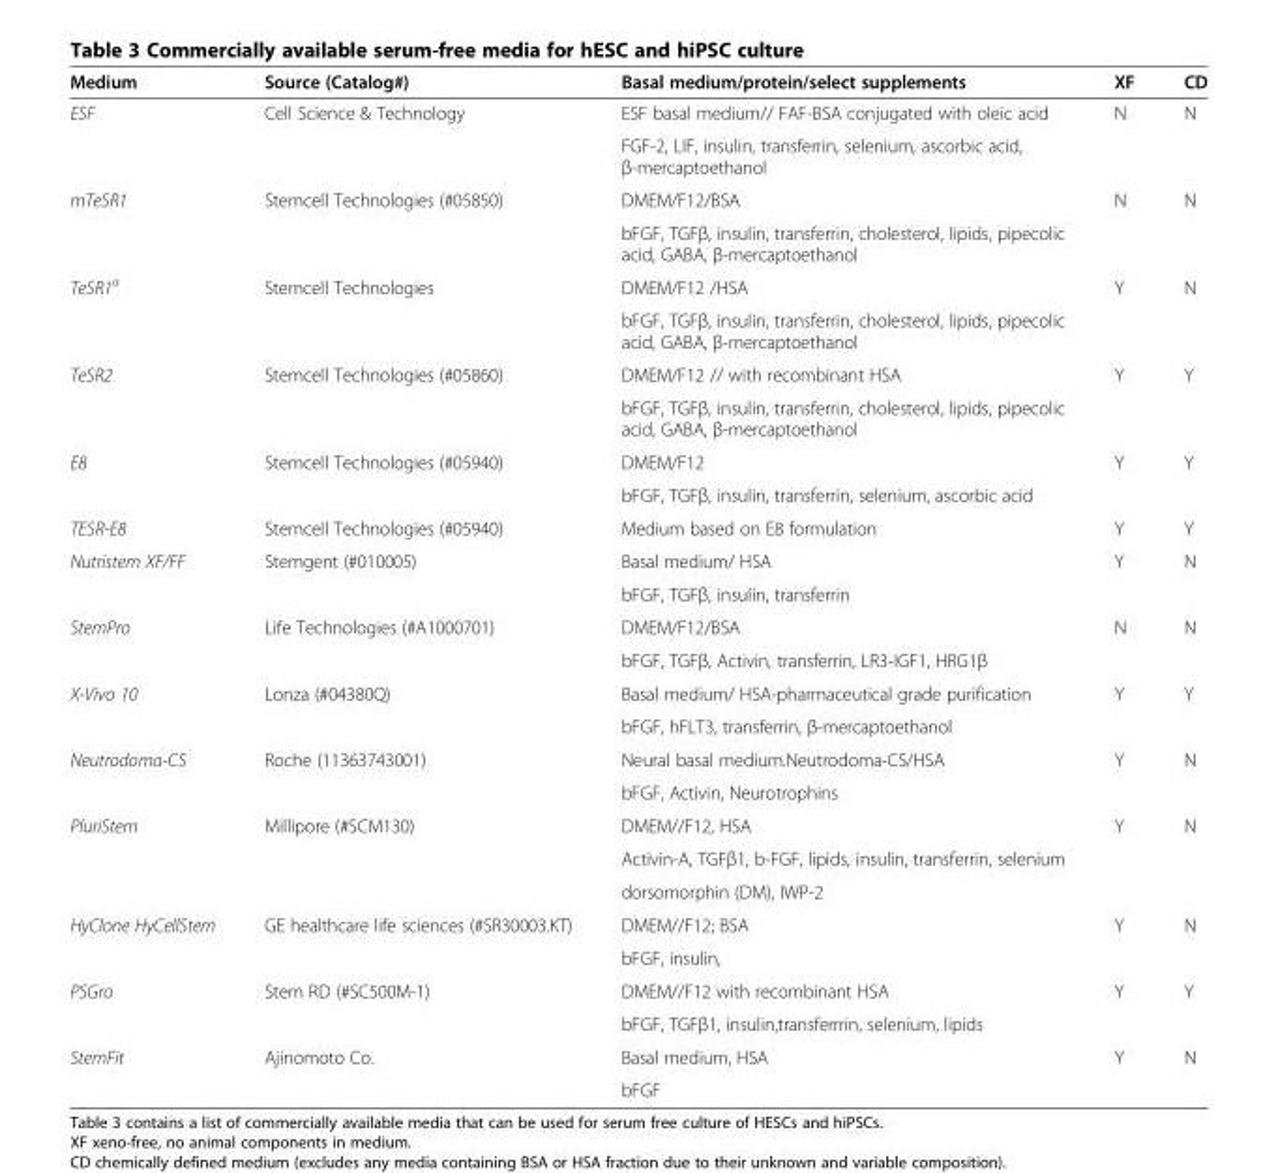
<table><thead><tr><td>Medium</td><td>Source (Catalog#)</td><td>Basal medium/protein/select supplements</td><td>XF</td><td>CD</td></tr></thead><tbody><tr><td rowspan="2">ESF</td><td rowspan="2">Cell Science &amp; Technology</td><td>ESF basal medium// FAF-BSA conjugated with oleic acid</td><td rowspan="2">N</td><td rowspan="2">N</td></tr><tr><td>FGF-2, LIF, insulin, transferrin, selenium, ascorbic acid, β-mercaptoethanol</td></tr><tr><td rowspan="2">mTeSR1</td><td rowspan="2">Stemcell Technologies (#05850)</td><td>DMEM/F12/BSA</td><td rowspan="2">N</td><td rowspan="2">N</td></tr><tr><td>bFGF, TGFβ, insulin, transferrin, cholesterol, lipids, pipecolic acid, GABA, β-mercaptoethanol</td></tr><tr><td rowspan="2">TeSR1<sup>a</sup></td><td rowspan="2">Stemcell Technologies</td><td>DMEM/F12 /HSA</td><td rowspan="2">Y</td><td rowspan="2">N</td></tr><tr><td>bFGF, TGFβ, insulin, transferrin, cholesterol, lipids, pipecolic acid, GABA, β-mercaptoethanol</td></tr><tr><td rowspan="2">TeSR2</td><td rowspan="2">Stemcell Technologies (#05860)</td><td>DMEM/F12 // with recombinant HSA</td><td rowspan="2">Y</td><td rowspan="2">Y</td></tr><tr><td>bFGF, TGFβ, insulin, transferrin, cholesterol, lipids, pipecolic acid, GABA, β-mercaptoethanol</td></tr><tr><td rowspan="2">E8</td><td rowspan="2">Stemcell Technologies (#05940)</td><td>DMEM/F12</td><td rowspan="2">Y</td><td rowspan="2">Y</td></tr><tr><td>bFGF, TGFβ, insulin, transferrin, selenium, ascorbic acid</td></tr><tr><td>TESR-E8</td><td>Stemcell Technologies (#05940)</td><td>Medium based on E8 formulation</td><td>Y</td><td>Y</td></tr><tr><td rowspan="2">Nutristem XF/FF</td><td rowspan="2">Stemgent (#010005)</td><td>Basal medium/ HSA</td><td rowspan="2">Y</td><td rowspan="2">N</td></tr><tr><td>bFGF, TGFβ, insulin, transferrin</td></tr><tr><td rowspan="2">StemPro</td><td rowspan="2">Life Technologies (#A1000701)</td><td>DMEM/F12/BSA</td><td rowspan="2">N</td><td rowspan="2">N</td></tr><tr><td>bFGF, TGFβ, Activin, transferrin, LR3-IGF1, HRG1β</td></tr><tr><td rowspan="2">X-Vivo 10</td><td rowspan="2">Lonza (#04380Q)</td><td>Basal medium/ HSA-pharmaceutical grade purification</td><td rowspan="2">Y</td><td rowspan="2">Y</td></tr><tr><td>bFGF, hFLT3, transferrin, β-mercaptoethanol</td></tr><tr><td rowspan="2">Neutrodoma-CS</td><td rowspan="2">Roche (11363743001)</td><td>Neural basal medium.Neutrodoma-CS/HSA</td><td rowspan="2">Y</td><td rowspan="2">N</td></tr><tr><td>bFGF, Activin, Neurotrophins</td></tr><tr><td rowspan="3">PluriStem</td><td rowspan="3">Millipore (#SCM130)</td><td>DMEM//F12, HSA</td><td rowspan="3">Y</td><td rowspan="3">N</td></tr><tr><td>Activin-A, TGFβ1, b-FGF, lipids, insulin, transferrin, selenium</td></tr><tr><td>dorsomorphin (DM), IWP-2</td></tr><tr><td rowspan="2">HyClone HyCellStem</td><td rowspan="2">GE healthcare life sciences (#SR30003.KT)</td><td>DMEM//F12; BSA</td><td rowspan="2">Y</td><td rowspan="2">N</td></tr><tr><td>bFGF, insulin,</td></tr><tr><td rowspan="2">PSGro</td><td rowspan="2">Stem RD (#SC500M-1)</td><td>DMEM//F12 with recombinant HSA</td><td rowspan="2">Y</td><td rowspan="2">Y</td></tr><tr><td>bFGF, TGFβ1, insulin,transferrrin, selenium, lipids</td></tr><tr><td rowspan="2">StemFit</td><td rowspan="2">Ajinomoto Co.</td><td>Basal medium, HSA</td><td rowspan="2">Y</td><td rowspan="2">N</td></tr><tr><td>bFGF</td></tr></tbody></table>